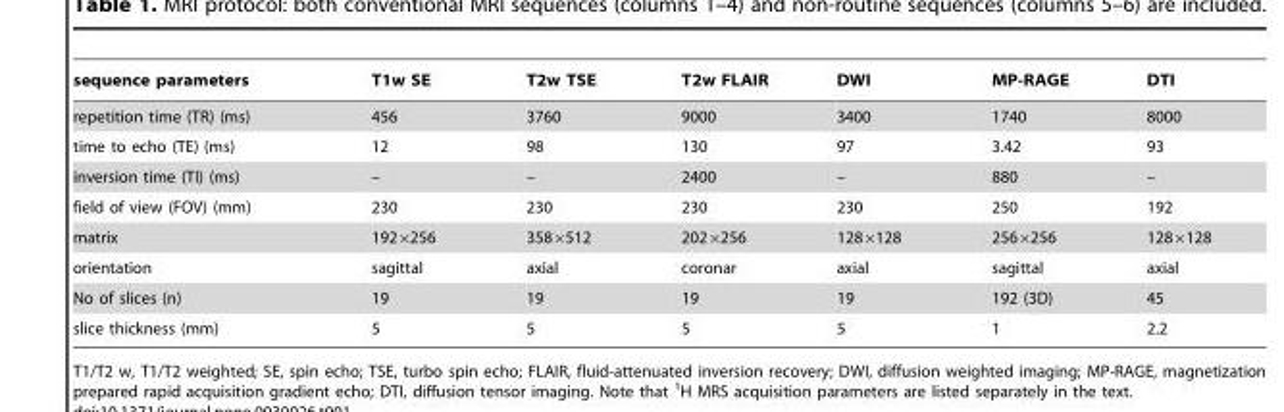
<table><thead><tr><td>sequence parameters</td><td>T1w SE</td><td>T2w TSE</td><td>T2w FLAIR</td><td>DWI</td><td>MP-RAGE</td><td>DTI</td></tr></thead><tbody><tr><td>repetition time (TR) (ms)</td><td>456</td><td>3760</td><td>9000</td><td>3400</td><td>1740</td><td>8000</td></tr><tr><td>time to echo (TE) (ms)</td><td>12</td><td>98</td><td>130</td><td>97</td><td>3.42</td><td>93</td></tr><tr><td>inversion time (TI) (ms)</td><td>–</td><td>–</td><td>2400</td><td>–</td><td>880</td><td>–</td></tr><tr><td>field of view (FOV) (mm)</td><td>230</td><td>230</td><td>230</td><td>230</td><td>250</td><td>192</td></tr><tr><td>matrix</td><td>192×256</td><td>358×512</td><td>202×256</td><td>128×128</td><td>256×256</td><td>128×128</td></tr><tr><td>orientation</td><td>sagittal</td><td>axial</td><td>coronar</td><td>axial</td><td>sagittal</td><td>axial</td></tr><tr><td>No of slices (n)</td><td>19</td><td>19</td><td>19</td><td>19</td><td>192 (3D)</td><td>45</td></tr><tr><td>slice thickness (mm)</td><td>5</td><td>5</td><td>5</td><td>5</td><td>1</td><td>2.2</td></tr></tbody></table>